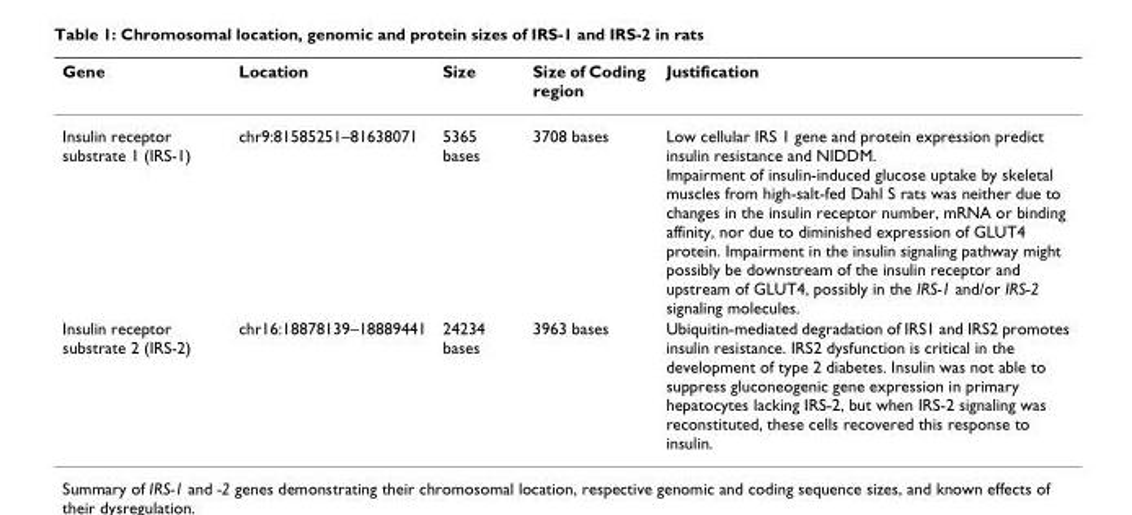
<table><thead><tr><td>Gene</td><td>Location</td><td>Size</td><td>Size of Coding region</td><td>Justification</td></tr></thead><tbody><tr><td>Insulin receptor substrate 1 (IRS-1)</td><td>chr9:81585251–81638071</td><td>5365 bases</td><td>3708 bases</td><td>Low cellular IRS 1 gene and protein expression predict insulin resistance and NIDDM. Impairment of insulin-induced glucose uptake by skeletal muscles from high-salt-fed Dahl S rats was neither due to changes in the insulin receptor number, mRNA or binding affinity, nor due to diminished expression of GLUT4 protein. Impairment in the insulin signaling pathway might possibly be downstream of the insulin receptor and upstream of GLUT4, possibly in the IRS-1 and/or IRS-2 signaling molecules.</td></tr><tr><td>Insulin receptor substrate 2 (IRS-2)</td><td>chr16:18878139–18889441</td><td>24234 bases</td><td>3963 bases</td><td>Ubiquitin-mediated degradation of IRS1 and IRS2 promotes insulin resistance. IRS2 dysfunction is critical in the development of type 2 diabetes. Insulin was not able to suppress gluconeogenic gene expression in primary hepatocytes lacking IRS-2, but when IRS-2 signaling was reconstituted, these cells recovered this response to insulin.</td></tr></tbody></table>